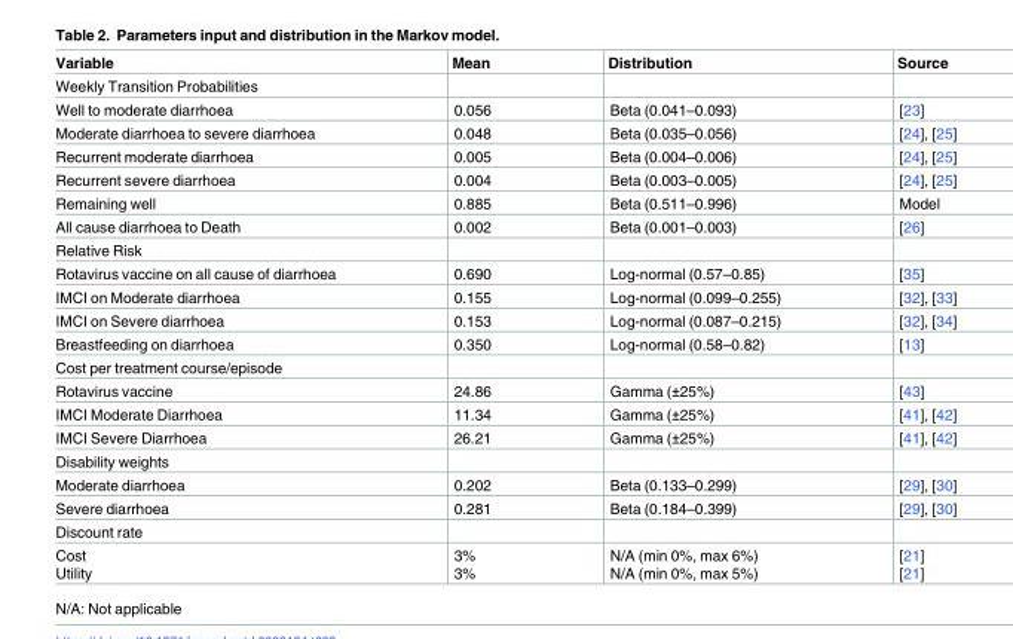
<table><thead><tr><td>Variable</td><td>Mean</td><td>Distribution</td><td>Source</td></tr></thead><tbody><tr><td colspan="4">Weekly Transition Probabilities</td></tr><tr><td>Well to moderate diarrhoea</td><td>0.056</td><td>Beta (0.041–0.093)</td><td>[23]</td></tr><tr><td>Moderate diarrhoea to severe diarrhoea</td><td>0.048</td><td>Beta (0.035–0.056)</td><td>[24], [25]</td></tr><tr><td>Recurrent moderate diarrhoea</td><td>0.005</td><td>Beta (0.004–0.006)</td><td>[24], [25]</td></tr><tr><td>Recurrent severe diarrhoea</td><td>0.004</td><td>Beta (0.003–0.005)</td><td>[24], [25]</td></tr><tr><td>Remaining well</td><td>0.885</td><td>Beta (0.511–0.996)</td><td>Model</td></tr><tr><td>All cause diarrhoea to Death</td><td>0.002</td><td>Beta (0.001–0.003)</td><td>[26]</td></tr><tr><td colspan="4">Relative Risk</td></tr><tr><td>Rotavirus vaccine on all cause of diarrhoea</td><td>0.690</td><td>Log-normal (0.57–0.85)</td><td>[35]</td></tr><tr><td>IMCI on Moderate diarrhoea</td><td>0.155</td><td>Log-normal (0.099–0.255)</td><td>[32], [33]</td></tr><tr><td>IMCI on Severe diarrhoea</td><td>0.153</td><td>Log-normal (0.087–0.215)</td><td>[32], [34]</td></tr><tr><td>Breastfeeding on diarrhoea</td><td>0.350</td><td>Log-normal (0.58–0.82)</td><td>[13]</td></tr><tr><td colspan="4">Cost per treatment course/episode</td></tr><tr><td>Rotavirus vaccine</td><td>24.86</td><td>Gamma (±25%)</td><td>[43]</td></tr><tr><td>IMCI Moderate Diarrhoea</td><td>11.34</td><td>Gamma (±25%)</td><td>[41], [42]</td></tr><tr><td>IMCI Severe Diarrhoea</td><td>26.21</td><td>Gamma (±25%)</td><td>[41], [42]</td></tr><tr><td colspan="4">Disability weights</td></tr><tr><td>Moderate diarrhoea</td><td>0.202</td><td>Beta (0.133–0.299)</td><td>[29], [30]</td></tr><tr><td>Severe diarrhoea</td><td>0.281</td><td>Beta (0.184–0.399)</td><td>[29], [30]</td></tr><tr><td colspan="4">Discount rate</td></tr><tr><td>Cost Utility</td><td>3% 3%</td><td>N/A (min 0%, max 6%) N/A (min 0%, max 5%)</td><td>[21] [21]</td></tr></tbody></table>